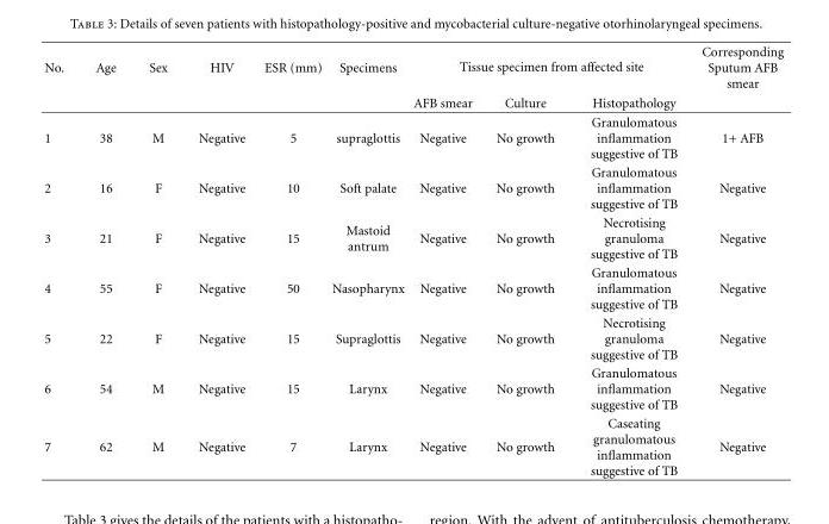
<table><thead><tr><td rowspan="2">No.</td><td rowspan="2">Age</td><td rowspan="2">Sex</td><td rowspan="2">HIV</td><td rowspan="2">ESR (mm)</td><td rowspan="2">Specimens</td><td colspan="3">Tissue specimen from affected site</td><td rowspan="2">Corresponding Sputum AFB smear</td></tr><tr><td>AFB smear</td><td>Culture</td><td>Histopathology</td></tr></thead><tbody><tr><td>1</td><td>38</td><td>M</td><td>Negative</td><td>5</td><td>supraglottis</td><td>Negative</td><td>No growth</td><td>Granulomatous inflammation suggestive of TB</td><td>1+ AFB</td></tr><tr><td>2</td><td>16</td><td>F</td><td>Negative</td><td>10</td><td>Soft palate</td><td>Negative</td><td>No growth</td><td>Granulomatous inflammation suggestive of TB</td><td>Negative</td></tr><tr><td>3</td><td>21</td><td>F</td><td>Negative</td><td>15</td><td>Mastoid antrum</td><td>Negative</td><td>No growth</td><td>Necrotising granuloma suggestive of TB</td><td>Negative</td></tr><tr><td>4</td><td>55</td><td>F</td><td>Negative</td><td>50</td><td>Nasopharynx</td><td>Negative</td><td>No growth</td><td>Granulomatous inflammation suggestive of TB</td><td>Negative</td></tr><tr><td>5</td><td>22</td><td>F</td><td>Negative</td><td>15</td><td>Supraglottis</td><td>Negative</td><td>No growth</td><td>Necrotising granuloma suggestive of TB</td><td>Negative</td></tr><tr><td>6</td><td>54</td><td>M</td><td>Negative</td><td>15</td><td>Larynx</td><td>Negative</td><td>No growth</td><td>Granulomatous inflammation suggestive of TB</td><td>Negative</td></tr><tr><td>7</td><td>62</td><td>M</td><td>Negative</td><td>7</td><td>Larynx</td><td>Negative</td><td>No growth</td><td>Caseating granulomatous inflammation suggestive of TB</td><td>Negative</td></tr></tbody></table>